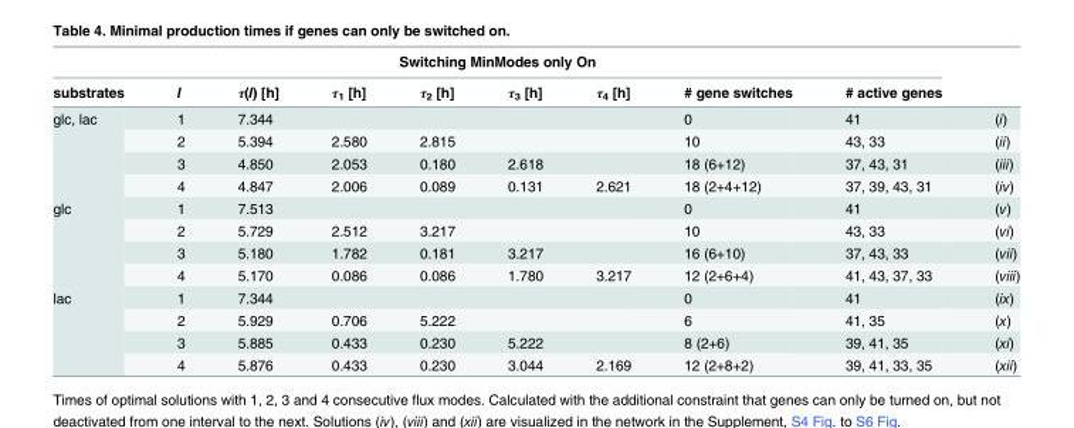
<table><thead><tr><td colspan="9">Switching MinModes only On</td><td rowspan="2"></td></tr><tr><td>substrates</td><td>l</td><td>τ(l) [h]</td><td>τ<sub>1</sub> [h]</td><td>τ<sub>2</sub> [h]</td><td>τ<sub>3</sub> [h]</td><td>τ<sub>4</sub> [h]</td><td># gene switches</td><td># active genes</td></tr></thead><tbody><tr><td rowspan="4">glc, lac</td><td>1</td><td>7.344</td><td></td><td></td><td></td><td></td><td>0</td><td>41</td><td>(i)</td></tr><tr><td>2</td><td>5.394</td><td>2.580</td><td>2.815</td><td></td><td></td><td>10</td><td>43, 33</td><td>(ii)</td></tr><tr><td>3</td><td>4.850</td><td>2.053</td><td>0.180</td><td>2.618</td><td></td><td>18 (6+12)</td><td>37, 43, 31</td><td>(iii)</td></tr><tr><td>4</td><td>4.847</td><td>2.006</td><td>0.089</td><td>0.131</td><td>2.621</td><td>18 (2+4+12)</td><td>37, 39, 43, 31</td><td>(iv)</td></tr><tr><td rowspan="4">glc</td><td>1</td><td>7.513</td><td></td><td></td><td></td><td></td><td>0</td><td>41</td><td>(v)</td></tr><tr><td>2</td><td>5.729</td><td>2.512</td><td>3.217</td><td></td><td></td><td>10</td><td>43, 33</td><td>(vi)</td></tr><tr><td>3</td><td>5.180</td><td>1.782</td><td>0.181</td><td>3.217</td><td></td><td>16 (6+10)</td><td>37, 43, 33</td><td>(vii)</td></tr><tr><td>4</td><td>5.170</td><td>0.086</td><td>0.086</td><td>1.780</td><td>3.217</td><td>12 (2+6+4)</td><td>41, 43, 37, 33</td><td>(viii)</td></tr><tr><td rowspan="4">lac</td><td>1</td><td>7.344</td><td></td><td></td><td></td><td></td><td>0</td><td>41</td><td>(ix)</td></tr><tr><td>2</td><td>5.929</td><td>0.706</td><td>5.222</td><td></td><td></td><td>6</td><td>41, 35</td><td>(x)</td></tr><tr><td>3</td><td>5.885</td><td>0.433</td><td>0.230</td><td>5.222</td><td></td><td>8 (2+6)</td><td>39, 41, 35</td><td>(xi)</td></tr><tr><td>4</td><td>5.876</td><td>0.433</td><td>0.230</td><td>3.044</td><td>2.169</td><td>12 (2+8+2)</td><td>39, 41, 33, 35</td><td>(xii)</td></tr></tbody></table>